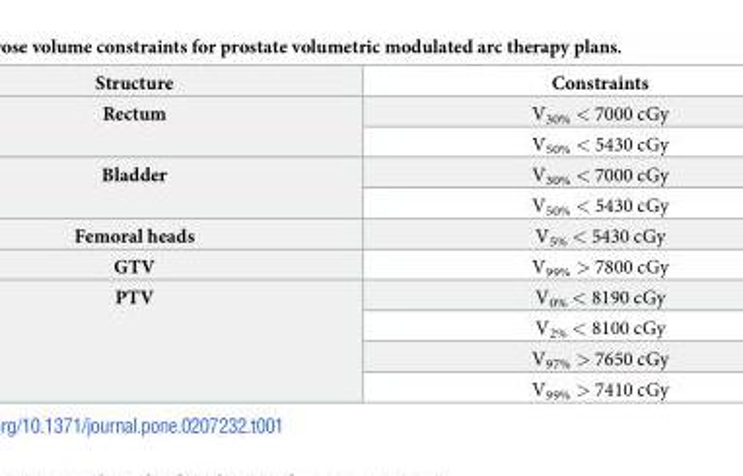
<table><thead><tr><td>Structure</td><td>Constraints</td></tr></thead><tbody><tr><td rowspan="2">Rectum</td><td>V<sub>30%</sub> &lt; 7000 cGy</td></tr><tr><td>V<sub>50%</sub> &lt; 5430 cGy</td></tr><tr><td rowspan="2">Bladder</td><td>V<sub>30%</sub> &lt; 7000 cGy</td></tr><tr><td>V<sub>50%</sub> &lt; 5430 cGy</td></tr><tr><td>Femoral heads</td><td>V<sub>5%</sub> &lt; 5430 cGy</td></tr><tr><td>GTV</td><td>V<sub>99%</sub> &gt; 7800 cGy</td></tr><tr><td rowspan="4">PTV</td><td>V<sub>0%</sub> &lt; 8190 cGy</td></tr><tr><td>V<sub>2%</sub> &lt; 8100 cGy</td></tr><tr><td>V<sub>97%</sub> &gt; 7650 cGy</td></tr><tr><td>V<sub>99%</sub> &gt; 7410 cGy</td></tr></tbody></table>